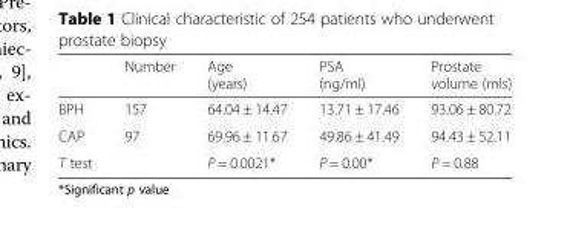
<table><thead><tr><td></td><td>Number</td><td>Age (years)</td><td>PSA (ng/ml)</td><td>Prostate volume (mls)</td></tr></thead><tbody><tr><td>BPH</td><td>157</td><td>64.04 ± 14.47</td><td>13.71 ± 17.46</td><td>93.06 ± 80.72</td></tr><tr><td>CAP</td><td>97</td><td>69.96 ± 11.67</td><td>49.86 ± 41.49</td><td>94.43 ± 52.11</td></tr><tr><td>T test</td><td></td><td>P = 0.0021*</td><td>P = 0.00*</td><td>P = 0.88</td></tr></tbody></table>